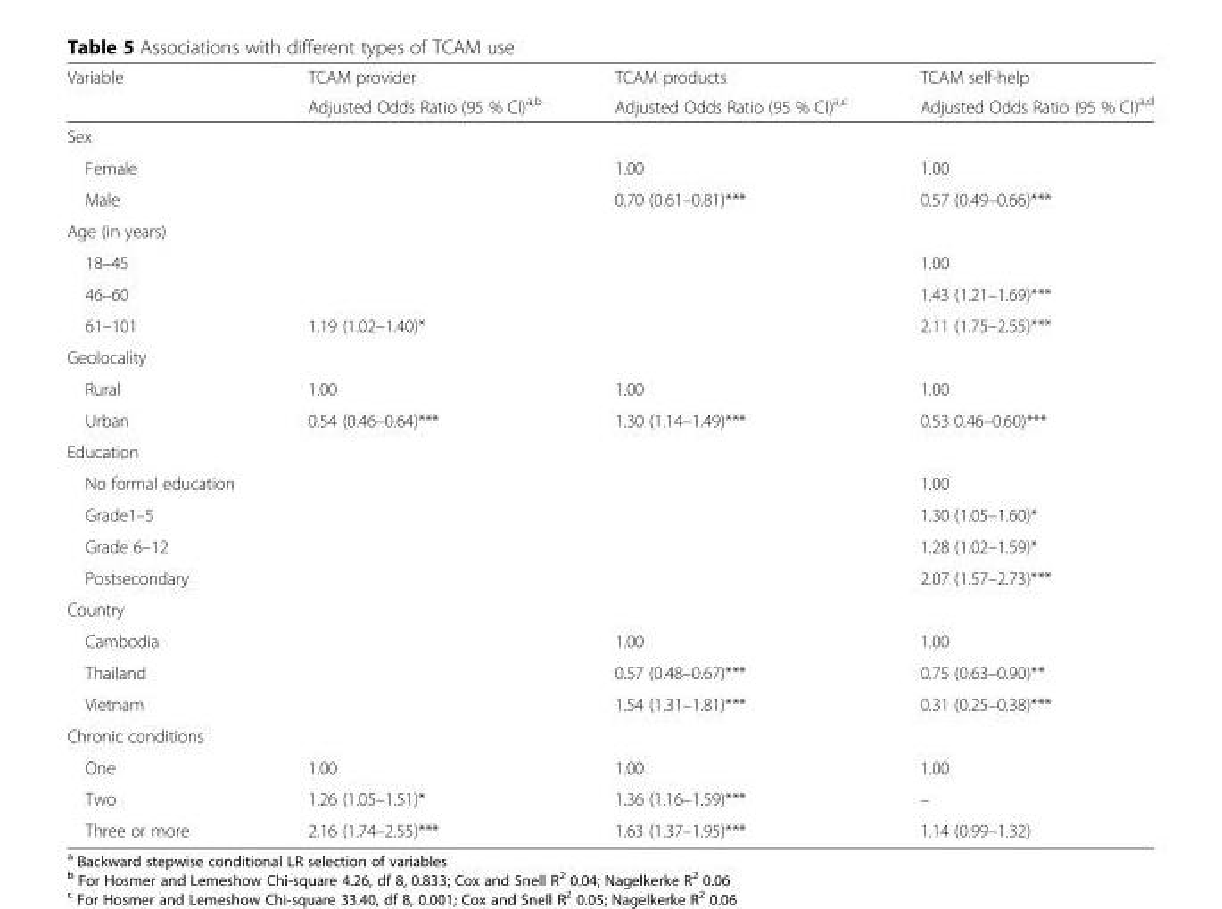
<table><thead><tr><td rowspan="2">Variable</td><td rowspan="2">TCAM provider Adjusted Odds Ratio (95 % CI)<sup>a,b</sup></td><td rowspan="2">TCAM products Adjusted Odds Ratio (95 % CI)<sup>a,c</sup></td><td rowspan="2">TCAM self-help Adjusted Odds Ratio (95 % CI)<sup>a,d</sup></td></tr><tr></tr></thead><tbody><tr><td colspan="4">Sex</td></tr><tr><td>Female</td><td></td><td>1.00</td><td>1.00</td></tr><tr><td>Male</td><td></td><td>0.70 (0.61–0.81)***</td><td>0.57 (0.49–0.66)***</td></tr><tr><td colspan="4">Age (in years)</td></tr><tr><td>18–45</td><td></td><td></td><td>1.00</td></tr><tr><td>46–60</td><td></td><td></td><td>1.43 (1.21–1.69)***</td></tr><tr><td>61–101</td><td>1.19 (1.02–1.40)*</td><td></td><td>2.11 (1.75–2.55)***</td></tr><tr><td colspan="4">Geolocality</td></tr><tr><td>Rural</td><td>1.00</td><td>1.00</td><td>1.00</td></tr><tr><td>Urban</td><td>0.54 (0.46–0.64)***</td><td>1.30 (1.14–1.49)***</td><td>0.53 0.46–0.60)***</td></tr><tr><td colspan="4">Education</td></tr><tr><td>No formal education</td><td></td><td></td><td>1.00</td></tr><tr><td>Grade1–5</td><td></td><td></td><td>1.30 (1.05–1.60)*</td></tr><tr><td>Grade 6–12</td><td></td><td></td><td>1.28 (1.02–1.59)*</td></tr><tr><td>Postsecondary</td><td></td><td></td><td>2.07 (1.57–2.73)***</td></tr><tr><td colspan="4">Country</td></tr><tr><td>Cambodia</td><td></td><td>1.00</td><td>1.00</td></tr><tr><td>Thailand</td><td></td><td>0.57 (0.48–0.67)***</td><td>0.75 (0.63–0.90)**</td></tr><tr><td>Vietnam</td><td></td><td>1.54 (1.31–1.81)***</td><td>0.31 (0.25–0.38)***</td></tr><tr><td colspan="4">Chronic conditions</td></tr><tr><td>One</td><td>1.00</td><td>1.00</td><td>1.00</td></tr><tr><td>Two</td><td>1.26 (1.05–1.51)*</td><td>1.36 (1.16–1.59)***</td><td>–</td></tr><tr><td>Three or more</td><td>2.16 (1.74–2.55)***</td><td>1.63 (1.37–1.95)***</td><td>1.14 (0.99–1.32)</td></tr></tbody></table>